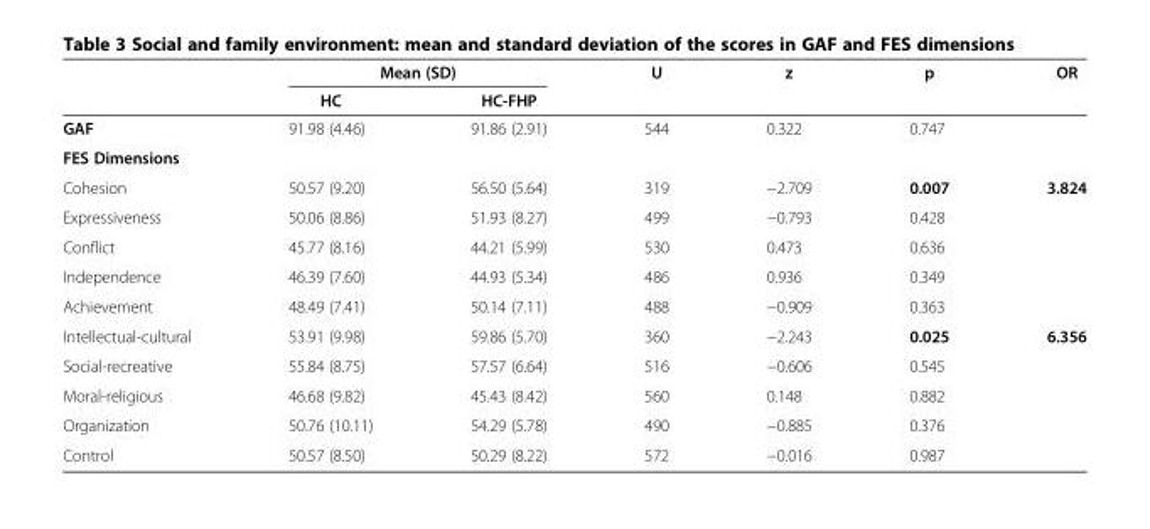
<table><thead><tr><td rowspan="2"></td><td colspan="2">Mean (SD)</td><td rowspan="2">U</td><td rowspan="2">z</td><td rowspan="2">p</td><td rowspan="2">OR</td></tr><tr><td>HC</td><td>HC-FHP</td></tr></thead><tbody><tr><td>GAF</td><td>91.98 (4.46)</td><td>91.86 (2.91)</td><td>544</td><td>0.322</td><td>0.747</td><td></td></tr><tr><td colspan="7">FES Dimensions</td></tr><tr><td>Cohesion</td><td>50.57 (9.20)</td><td>56.50 (5.64)</td><td>319</td><td>−2.709</td><td>0.007</td><td>3.824</td></tr><tr><td>Expressiveness</td><td>50.06 (8.86)</td><td>51.93 (8.27)</td><td>499</td><td>−0.793</td><td>0.428</td><td></td></tr><tr><td>Conflict</td><td>45.77 (8.16)</td><td>44.21 (5.99)</td><td>530</td><td>0.473</td><td>0.636</td><td></td></tr><tr><td>Independence</td><td>46.39 (7.60)</td><td>44.93 (5.34)</td><td>486</td><td>0.936</td><td>0.349</td><td></td></tr><tr><td>Achievement</td><td>48.49 (7.41)</td><td>50.14 (7.11)</td><td>488</td><td>−0.909</td><td>0.363</td><td></td></tr><tr><td>Intellectual-cultural</td><td>53.91 (9.98)</td><td>59.86 (5.70)</td><td>360</td><td>−2.243</td><td>0.025</td><td>6.356</td></tr><tr><td>Social-recreative</td><td>55.84 (8.75)</td><td>57.57 (6.64)</td><td>516</td><td>−0.606</td><td>0.545</td><td></td></tr><tr><td>Moral-religious</td><td>46.68 (9.82)</td><td>45.43 (8.42)</td><td>560</td><td>0.148</td><td>0.882</td><td></td></tr><tr><td>Organization</td><td>50.76 (10.11)</td><td>54.29 (5.78)</td><td>490</td><td>−0.885</td><td>0.376</td><td></td></tr><tr><td>Control</td><td>50.57 (8.50)</td><td>50.29 (8.22)</td><td>572</td><td>−0.016</td><td>0.987</td><td></td></tr></tbody></table>